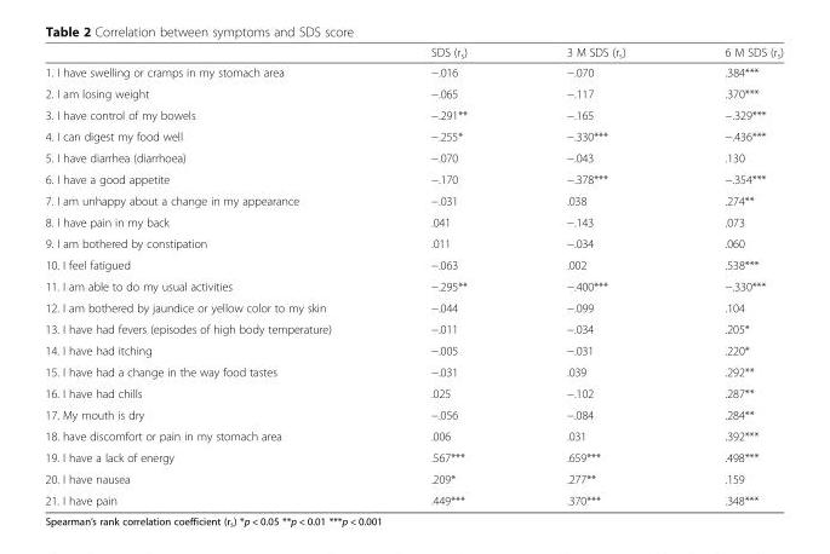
<table><thead><tr><td></td><td>SDS (r<sub>s</sub>)</td><td>3 M SDS (r<sub>s</sub>)</td><td>6 M SDS (r<sub>s</sub>)</td></tr></thead><tbody><tr><td>1. I have swelling or cramps in my stomach area</td><td>−.016</td><td>−.070</td><td>.384***</td></tr><tr><td>2. I am losing weight</td><td>−.065</td><td>−.117</td><td>.370***</td></tr><tr><td>3. I have control of my bowels</td><td>−.291**</td><td>−.165</td><td>−.329***</td></tr><tr><td>4. I can digest my food well</td><td>−.255*</td><td>−.330***</td><td>−.436***</td></tr><tr><td>5. I have diarrhea (diarrhoea)</td><td>−.070</td><td>−.043</td><td>.130</td></tr><tr><td>6. I have a good appetite</td><td>−.170</td><td>−.378***</td><td>−.354***</td></tr><tr><td>7. I am unhappy about a change in my appearance</td><td>−.031</td><td>.038</td><td>.274**</td></tr><tr><td>8. I have pain in my back</td><td>.041</td><td>−.143</td><td>.073</td></tr><tr><td>9. I am bothered by constipation</td><td>.011</td><td>−.034</td><td>.060</td></tr><tr><td>10. I feel fatigued</td><td>−.063</td><td>.002</td><td>.538***</td></tr><tr><td>11. I am able to do my usual activities</td><td>−.295**</td><td>−.400***</td><td>−.330***</td></tr><tr><td>12. I am bothered by jaundice or yellow color to my skin</td><td>−.044</td><td>−.099</td><td>.104</td></tr><tr><td>13. I have had fevers (episodes of high body temperature)</td><td>−.011</td><td>−.034</td><td>.205*</td></tr><tr><td>14. I have had itching</td><td>−.005</td><td>−.031</td><td>.220*</td></tr><tr><td>15. I have had a change in the way food tastes</td><td>−.031</td><td>.039</td><td>.292**</td></tr><tr><td>16. I have had chills</td><td>.025</td><td>−.102</td><td>.287**</td></tr><tr><td>17. My mouth is dry</td><td>−.056</td><td>−.084</td><td>.284**</td></tr><tr><td>18. have discomfort or pain in my stomach area</td><td>.006</td><td>.031</td><td>.392***</td></tr><tr><td>19. I have a lack of energy</td><td>.567***</td><td>.659***</td><td>.498***</td></tr><tr><td>20. I have nausea</td><td>.209*</td><td>.277**</td><td>.159</td></tr><tr><td>21. I have pain</td><td>.449***</td><td>.370***</td><td>.348***</td></tr></tbody></table>